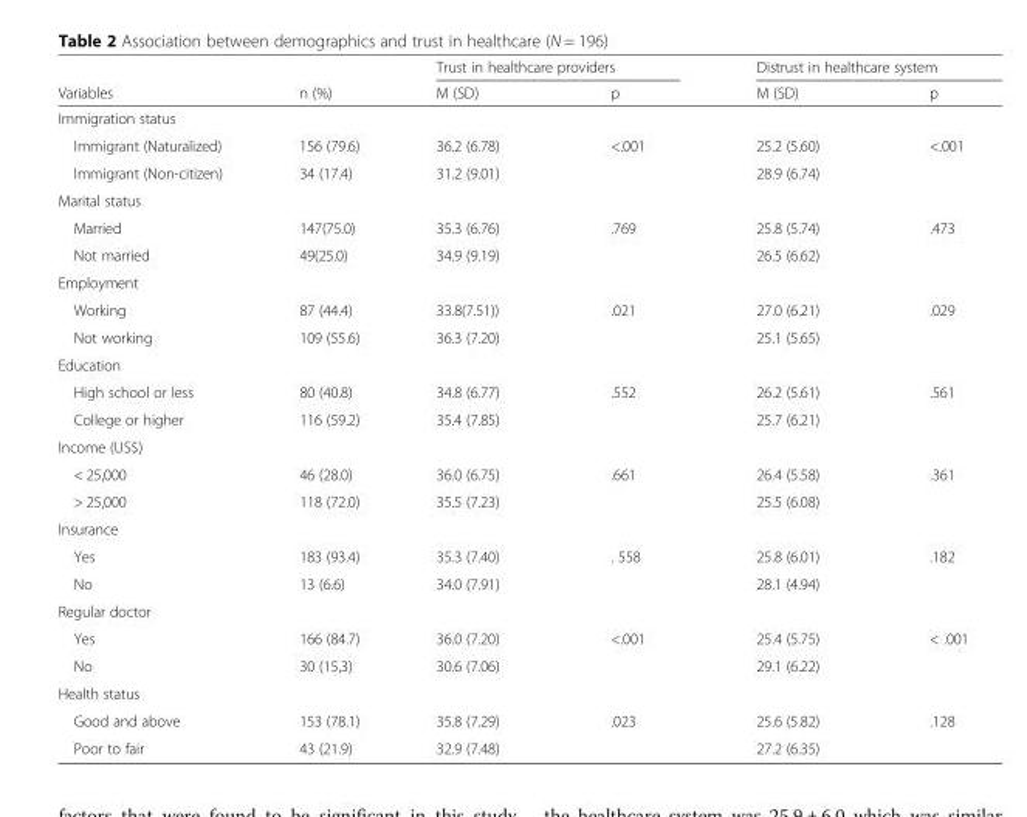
<table><thead><tr><td rowspan="2">Variables</td><td rowspan="2">n (%)</td><td colspan="2">Trust in healthcare providers</td><td colspan="2">Distrust in healthcare system</td></tr><tr><td>M (SD)</td><td>p</td><td>M (SD)</td><td>p</td></tr></thead><tbody><tr><td colspan="6">Immigration status</td></tr><tr><td>Immigrant (Naturalized)</td><td>156 (79.6)</td><td>36.2 (6.78)</td><td rowspan="2">&lt;.001</td><td>25.2 (5.60)</td><td rowspan="2">&lt;.001</td></tr><tr><td>Immigrant (Non-citizen)</td><td>34 (17.4)</td><td>31.2 (9.01)</td><td>28.9 (6.74)</td></tr><tr><td colspan="6">Marital status</td></tr><tr><td>Married</td><td>147(75.0)</td><td>35.3 (6.76)</td><td rowspan="2">.769</td><td>25.8 (5.74)</td><td rowspan="2">.473</td></tr><tr><td>Not married</td><td>49(25.0)</td><td>34.9 (9.19)</td><td>26.5 (6.62)</td></tr><tr><td colspan="6">Employment</td></tr><tr><td>Working</td><td>87 (44.4)</td><td>33.8(7.51))</td><td rowspan="2">.021</td><td>27.0 (6.21)</td><td rowspan="2">.029</td></tr><tr><td>Not working</td><td>109 (55.6)</td><td>36.3 (7.20)</td><td>25.1 (5.65)</td></tr><tr><td colspan="6">Education</td></tr><tr><td>High school or less</td><td>80 (40.8)</td><td>34.8 (6.77)</td><td rowspan="2">.552</td><td>26.2 (5.61)</td><td rowspan="2">.561</td></tr><tr><td>College or higher</td><td>116 (59.2)</td><td>35.4 (7.85)</td><td>25.7 (6.21)</td></tr><tr><td colspan="6">Income (US$)</td></tr><tr><td>&lt; 25,000</td><td>46 (28.0)</td><td>36.0 (6.75)</td><td rowspan="2">.661</td><td>26.4 (5.58)</td><td rowspan="2">.361</td></tr><tr><td>&gt; 25,000</td><td>118 (72.0)</td><td>35.5 (7.23)</td><td>25.5 (6.08)</td></tr><tr><td colspan="6">Insurance</td></tr><tr><td>Yes</td><td>183 (93.4)</td><td>35.3 (7.40)</td><td rowspan="2">. 558</td><td>25.8 (6.01)</td><td rowspan="2">.182</td></tr><tr><td>No</td><td>13 (6.6)</td><td>34.0 (7.91)</td><td>28.1 (4.94)</td></tr><tr><td colspan="6">Regular doctor</td></tr><tr><td>Yes</td><td>166 (84.7)</td><td>36.0 (7.20)</td><td rowspan="2">&lt;.001</td><td>25.4 (5.75)</td><td rowspan="2">&lt; .001</td></tr><tr><td>No</td><td>30 (15,3)</td><td>30.6 (7.06)</td><td>29.1 (6.22)</td></tr><tr><td colspan="6">Health status</td></tr><tr><td>Good and above</td><td>153 (78.1)</td><td>35.8 (7.29)</td><td rowspan="2">.023</td><td>25.6 (5.82)</td><td rowspan="2">.128</td></tr><tr><td>Poor to fair</td><td>43 (21.9)</td><td>32.9 (7.48)</td><td>27.2 (6.35)</td></tr></tbody></table>